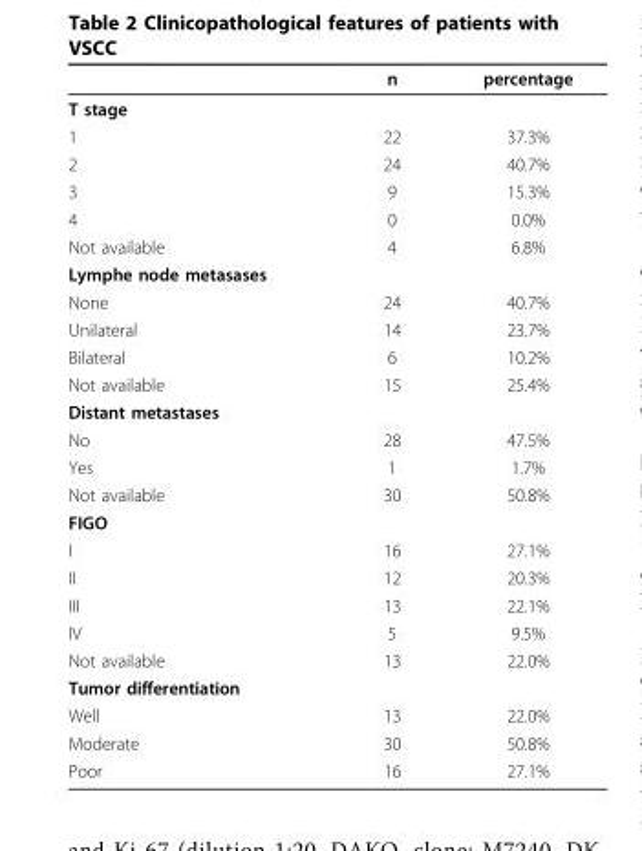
<table><thead><tr><td></td><td>n</td><td>percentage</td></tr></thead><tbody><tr><td colspan="3">T stage</td></tr><tr><td>1</td><td>22</td><td>37.3%</td></tr><tr><td>2</td><td>24</td><td>40.7%</td></tr><tr><td>3</td><td>9</td><td>15.3%</td></tr><tr><td>4</td><td>0</td><td>0.0%</td></tr><tr><td>Not available</td><td>4</td><td>6.8%</td></tr><tr><td colspan="3">Lymphe node metasases</td></tr><tr><td>None</td><td>24</td><td>40.7%</td></tr><tr><td>Unilateral</td><td>14</td><td>23.7%</td></tr><tr><td>Bilateral</td><td>6</td><td>10.2%</td></tr><tr><td>Not available</td><td>15</td><td>25.4%</td></tr><tr><td colspan="3">Distant metastases</td></tr><tr><td>No</td><td>28</td><td>47.5%</td></tr><tr><td>Yes</td><td>1</td><td>1.7%</td></tr><tr><td>Not available</td><td>30</td><td>50.8%</td></tr><tr><td colspan="3">FIGO</td></tr><tr><td>I</td><td>16</td><td>27.1%</td></tr><tr><td>II</td><td>12</td><td>20.3%</td></tr><tr><td>III</td><td>13</td><td>22.1%</td></tr><tr><td>IV</td><td>5</td><td>9.5%</td></tr><tr><td>Not available</td><td>13</td><td>22.0%</td></tr><tr><td colspan="3">Tumor differentiation</td></tr><tr><td>Well</td><td>13</td><td>22.0%</td></tr><tr><td>Moderate</td><td>30</td><td>50.8%</td></tr><tr><td>Poor</td><td>16</td><td>27.1%</td></tr></tbody></table>